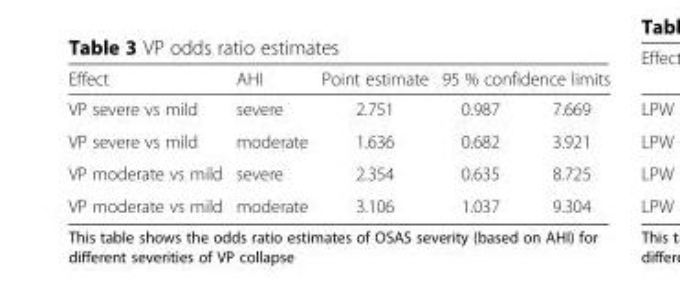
<table><thead><tr><td rowspan="2">Effect VP severe vs mild</td><td rowspan="2">AHI severe</td><td rowspan="2">Point estimate 2.751</td><td colspan="2">95 % confidence limits</td></tr><tr><td>0.987</td><td>7.669</td></tr></thead><tbody><tr><td>VP severe vs mild</td><td>moderate</td><td>1.636</td><td>0.682</td><td>3.921</td></tr><tr><td>VP moderate vs mild</td><td>severe</td><td>2.354</td><td>0.635</td><td>8.725</td></tr><tr><td>VP moderate vs mild</td><td>moderate</td><td>3.106</td><td>1.037</td><td>9.304</td></tr></tbody></table>